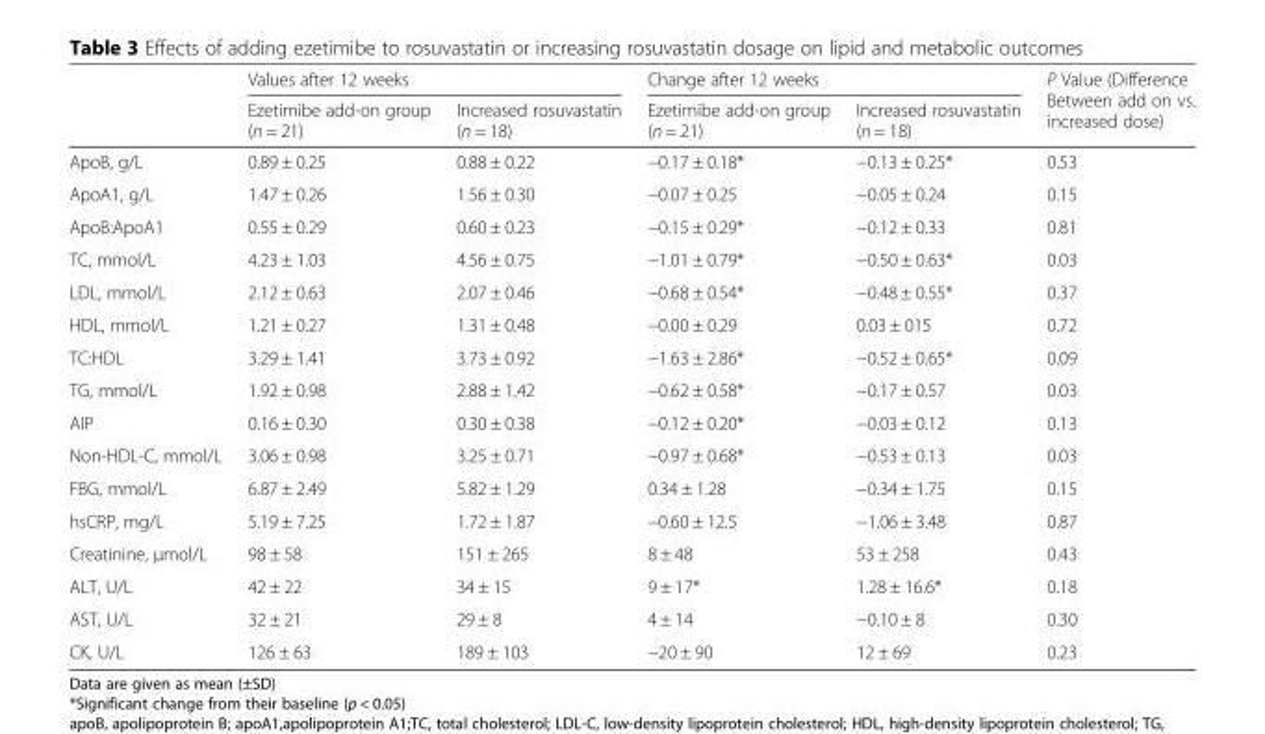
<table><thead><tr><td rowspan="2"></td><td colspan="2">Values after 12 weeks</td><td colspan="2">Change after 12 weeks</td><td rowspan="2">P Value (Difference Between add on vs. increased dose)</td></tr><tr><td>Ezetimibe add-on group (n = 21)</td><td>Increased rosuvastatin (n = 18)</td><td>Ezetimibe add-on group (n = 21)</td><td>Increased rosuvastatin (n = 18)</td></tr></thead><tbody><tr><td>ApoB, g/L</td><td>0.89 ± 0.25</td><td>0.88 ± 0.22</td><td>−0.17 ± 0.18*</td><td>−0.13 ± 0.25*</td><td>0.53</td></tr><tr><td>ApoA1, g/L</td><td>1.47 ± 0.26</td><td>1.56 ± 0.30</td><td>−0.07 ± 0.25</td><td>−0.05 ± 0.24</td><td>0.15</td></tr><tr><td>ApoB:ApoA1</td><td>0.55 ± 0.29</td><td>0.60 ± 0.23</td><td>−0.15 ± 0.29*</td><td>−0.12 ± 0.33</td><td>0.81</td></tr><tr><td>TC, mmol/L</td><td>4.23 ± 1.03</td><td>4.56 ± 0.75</td><td>−1.01 ± 0.79*</td><td>−0.50 ± 0.63*</td><td>0.03</td></tr><tr><td>LDL, mmol/L</td><td>2.12 ± 0.63</td><td>2.07 ± 0.46</td><td>−0.68 ± 0.54*</td><td>−0.48 ± 0.55*</td><td>0.37</td></tr><tr><td>HDL, mmol/L</td><td>1.21 ± 0.27</td><td>1.31 ± 0.48</td><td>−0.00 ± 0.29</td><td>0.03 ± 015</td><td>0.72</td></tr><tr><td>TC:HDL</td><td>3.29 ± 1.41</td><td>3.73 ± 0.92</td><td>−1.63 ± 2.86*</td><td>−0.52 ± 0.65*</td><td>0.09</td></tr><tr><td>TG, mmol/L</td><td>1.92 ± 0.98</td><td>2.88 ± 1.42</td><td>−0.62 ± 0.58*</td><td>−0.17 ± 0.57</td><td>0.03</td></tr><tr><td>AIP</td><td>0.16 ± 0.30</td><td>0.30 ± 0.38</td><td>−0.12 ± 0.20*</td><td>−0.03 ± 0.12</td><td>0.13</td></tr><tr><td>Non-HDL-C, mmol/L</td><td>3.06 ± 0.98</td><td>3.25 ± 0.71</td><td>−0.97 ± 0.68*</td><td>−0.53 ± 0.13</td><td>0.03</td></tr><tr><td>FBG, mmol/L</td><td>6.87 ± 2.49</td><td>5.82 ± 1.29</td><td>0.34 ± 1.28</td><td>−0.34 ± 1.75</td><td>0.15</td></tr><tr><td>hsCRP, mg/L</td><td>5.19 ± 7.25</td><td>1.72 ± 1.87</td><td>−0.60 ± 12.5</td><td>−1.06 ± 3.48</td><td>0.87</td></tr><tr><td>Creatinine, μmol/L</td><td>98 ± 58</td><td>151 ± 265</td><td>8 ± 48</td><td>53 ± 258</td><td>0.43</td></tr><tr><td>ALT, U/L</td><td>42 ± 22</td><td>34 ± 15</td><td>9 ± 17*</td><td>1.28 ± 16.6*</td><td>0.18</td></tr><tr><td>AST, U/L</td><td>32 ± 21</td><td>29 ± 8</td><td>4 ± 14</td><td>−0.10 ± 8</td><td>0.30</td></tr><tr><td>CK, U/L</td><td>126 ± 63</td><td>189 ± 103</td><td>−20 ± 90</td><td>12 ± 69</td><td>0.23</td></tr></tbody></table>